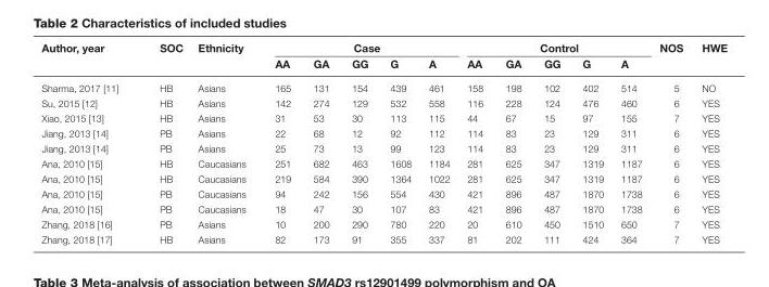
<table><thead><tr><td rowspan="2">Author, year</td><td rowspan="2">SOC</td><td rowspan="2">Ethnicity</td><td colspan="5">Case</td><td colspan="5">Control</td><td rowspan="2">NOS</td><td rowspan="2">HWE</td></tr><tr><td>AA</td><td>GA</td><td>GG</td><td>G</td><td>A</td><td>AA</td><td>GA</td><td>GG</td><td>G</td><td>A</td></tr></thead><tbody><tr><td>Sharma, 2017 [11]</td><td>HB</td><td>Asians</td><td>165</td><td>131</td><td>154</td><td>439</td><td>461</td><td>158</td><td>198</td><td>102</td><td>402</td><td>514</td><td>5</td><td>NO</td></tr><tr><td>Su, 2015 [12]</td><td>HB</td><td>Asians</td><td>142</td><td>274</td><td>129</td><td>532</td><td>558</td><td>116</td><td>228</td><td>124</td><td>476</td><td>460</td><td>6</td><td>YES</td></tr><tr><td>Xiao, 2015 [13]</td><td>HB</td><td>Asians</td><td>31</td><td>53</td><td>30</td><td>113</td><td>115</td><td>44</td><td>67</td><td>15</td><td>97</td><td>155</td><td>7</td><td>YES</td></tr><tr><td>Jiang, 2013 [14]</td><td>PB</td><td>Asians</td><td>22</td><td>68</td><td>12</td><td>92</td><td>112</td><td>114</td><td>83</td><td>23</td><td>129</td><td>311</td><td>6</td><td>YES</td></tr><tr><td>Jiang, 2013 [14]</td><td>PB</td><td>Asians</td><td>25</td><td>73</td><td>13</td><td>99</td><td>123</td><td>114</td><td>83</td><td>23</td><td>129</td><td>311</td><td>6</td><td>YES</td></tr><tr><td>Ana, 2010 [15]</td><td>HB</td><td>Caucasians</td><td>251</td><td>682</td><td>463</td><td>1608</td><td>1184</td><td>281</td><td>625</td><td>347</td><td>1319</td><td>1187</td><td>6</td><td>YES</td></tr><tr><td>Ana, 2010 [15]</td><td>HB</td><td>Caucasians</td><td>219</td><td>584</td><td>390</td><td>1364</td><td>1022</td><td>281</td><td>625</td><td>347</td><td>1319</td><td>1187</td><td>6</td><td>YES</td></tr><tr><td>Ana, 2010 [15]</td><td>PB</td><td>Caucasians</td><td>94</td><td>242</td><td>156</td><td>554</td><td>430</td><td>421</td><td>896</td><td>487</td><td>1870</td><td>1738</td><td>6</td><td>YES</td></tr><tr><td>Ana, 2010 [15]</td><td>PB</td><td>Caucasians</td><td>18</td><td>47</td><td>30</td><td>107</td><td>83</td><td>421</td><td>896</td><td>487</td><td>1870</td><td>1738</td><td>6</td><td>YES</td></tr><tr><td>Zhang, 2018 [16]</td><td>PB</td><td>Asians</td><td>10</td><td>200</td><td>290</td><td>780</td><td>220</td><td>20</td><td>610</td><td>450</td><td>1510</td><td>650</td><td>7</td><td>YES</td></tr><tr><td>Zhang, 2018 [17]</td><td>HB</td><td>Asians</td><td>82</td><td>173</td><td>91</td><td>355</td><td>337</td><td>81</td><td>202</td><td>111</td><td>424</td><td>364</td><td>7</td><td>YES</td></tr></tbody></table>